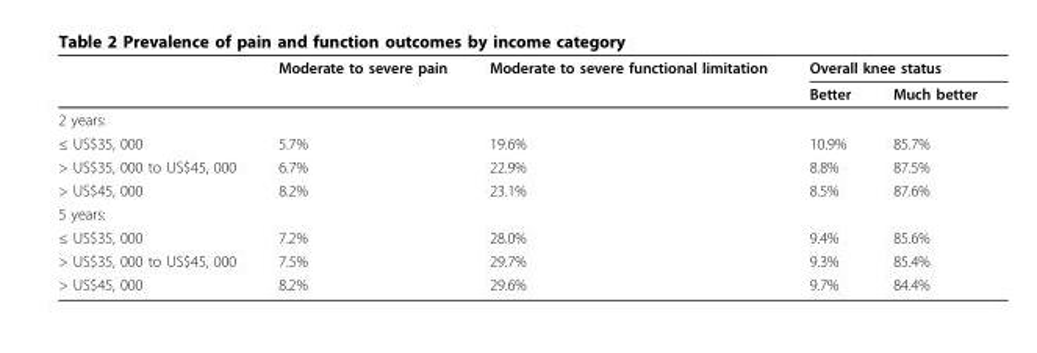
<table><thead><tr><td rowspan="2"></td><td rowspan="2">Moderate to severe pain</td><td rowspan="2">Moderate to severe functional limitation</td><td colspan="2">Overall knee status</td></tr><tr><td>Better</td><td>Much better</td></tr></thead><tbody><tr><td colspan="5">2 years:</td></tr><tr><td>≤ US$35, 000</td><td>5.7%</td><td>19.6%</td><td>10.9%</td><td>85.7%</td></tr><tr><td>&gt; US$35, 000 to US$45, 000</td><td>6.7%</td><td>22.9%</td><td>8.8%</td><td>87.5%</td></tr><tr><td>&gt; US$45, 000</td><td>8.2%</td><td>23.1%</td><td>8.5%</td><td>87.6%</td></tr><tr><td colspan="5">5 years:</td></tr><tr><td>≤ US$35, 000</td><td>7.2%</td><td>28.0%</td><td>9.4%</td><td>85.6%</td></tr><tr><td>&gt; US$35, 000 to US$45, 000</td><td>7.5%</td><td>29.7%</td><td>9.3%</td><td>85.4%</td></tr><tr><td>&gt; US$45, 000</td><td>8.2%</td><td>29.6%</td><td>9.7%</td><td>84.4%</td></tr></tbody></table>